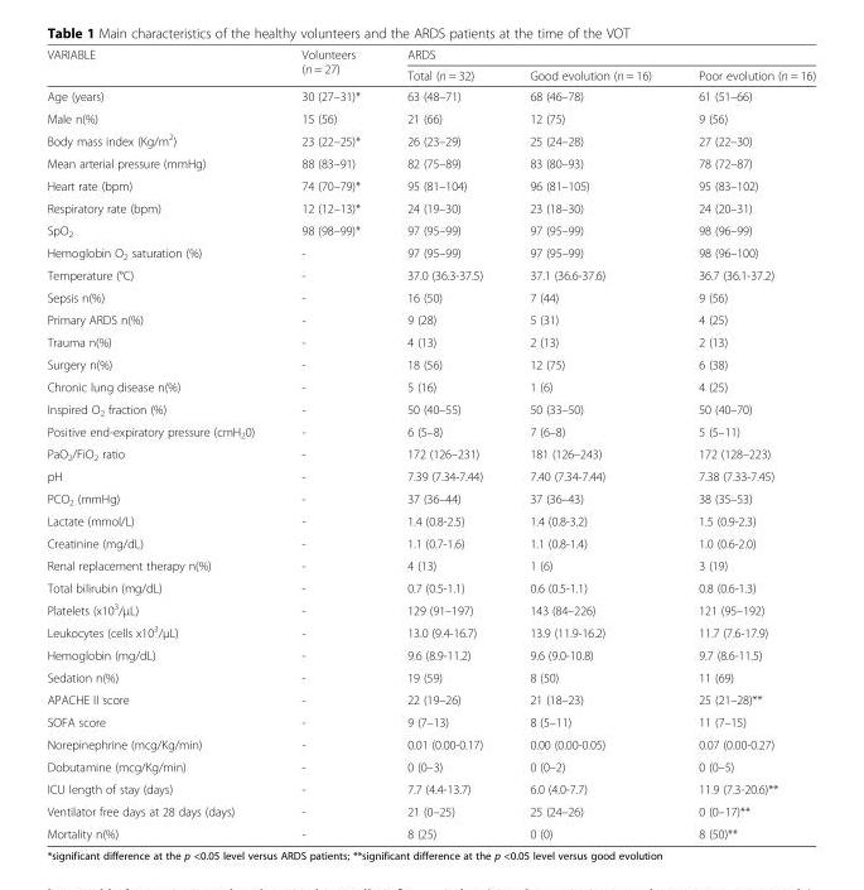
<table><thead><tr><td rowspan="2">VARIABLE</td><td rowspan="2">Volunteers (n = 27)</td><td colspan="3">ARDS</td></tr><tr><td>Total (n = 32)</td><td>Good evolution (n = 16)</td><td>Poor evolution (n = 16)</td></tr></thead><tbody><tr><td>Age (years)</td><td>30 (27–31)*</td><td>63 (48–71)</td><td>68 (46–78)</td><td>61 (51–66)</td></tr><tr><td>Male n(%)</td><td>15 (56)</td><td>21 (66)</td><td>12 (75)</td><td>9 (56)</td></tr><tr><td>Body mass index (Kg/m<sup>2</sup>)</td><td>23 (22–25)*</td><td>26 (23–29)</td><td>25 (24–28)</td><td>27 (22–30)</td></tr><tr><td>Mean arterial pressure (mmHg)</td><td>88 (83–91)</td><td>82 (75–89)</td><td>83 (80–93)</td><td>78 (72–87)</td></tr><tr><td>Heart rate (bpm)</td><td>74 (70–79)*</td><td>95 (81–104)</td><td>96 (81–105)</td><td>95 (83–102)</td></tr><tr><td>Respiratory rate (bpm)</td><td>12 (12–13)*</td><td>24 (19–30)</td><td>23 (18–30)</td><td>24 (20–31)</td></tr><tr><td>SpO<sub>2</sub></td><td>98 (98–99)*</td><td>97 (95–99)</td><td>97 (95–99)</td><td>98 (96–99)</td></tr><tr><td>Hemoglobin O<sub>2</sub> saturation (%)</td><td>-</td><td>97 (95–99)</td><td>97 (95–99)</td><td>98 (96–100)</td></tr><tr><td>Temperature (°C)</td><td>-</td><td>37.0 (36.3-37.5)</td><td>37.1 (36.6-37.6)</td><td>36.7 (36.1-37.2)</td></tr><tr><td>Sepsis n(%)</td><td>-</td><td>16 (50)</td><td>7 (44)</td><td>9 (56)</td></tr><tr><td>Primary ARDS n(%)</td><td>-</td><td>9 (28)</td><td>5 (31)</td><td>4 (25)</td></tr><tr><td>Trauma n(%)</td><td>-</td><td>4 (13)</td><td>2 (13)</td><td>2 (13)</td></tr><tr><td>Surgery n(%)</td><td>-</td><td>18 (56)</td><td>12 (75)</td><td>6 (38)</td></tr><tr><td>Chronic lung disease n(%)</td><td>-</td><td>5 (16)</td><td>1 (6)</td><td>4 (25)</td></tr><tr><td>Inspired O<sub>2</sub> fraction (%)</td><td>-</td><td>50 (40–55)</td><td>50 (33–50)</td><td>50 (40–70)</td></tr><tr><td>Positive end-expiratory pressure (cmH<sub>2</sub>0)</td><td>-</td><td>6 (5–8)</td><td>7 (6–8)</td><td>5 (5–11)</td></tr><tr><td>PaO<sub>2</sub>/FiO<sub>2</sub> ratio</td><td>-</td><td>172 (126–231)</td><td>181 (126–243)</td><td>172 (128–223)</td></tr><tr><td>pH</td><td>-</td><td>7.39 (7.34-7.44)</td><td>7.40 (7.34-7.44)</td><td>7.38 (7.33-7.45)</td></tr><tr><td>PCO<sub>2</sub> (mmHg)</td><td>-</td><td>37 (36–44)</td><td>37 (36–43)</td><td>38 (35–53)</td></tr><tr><td>Lactate (mmol/L)</td><td>-</td><td>1.4 (0.8-2.5)</td><td>1.4 (0.8-3.2)</td><td>1.5 (0.9-2.3)</td></tr><tr><td>Creatinine (mg/dL)</td><td>-</td><td>1.1 (0.7-1.6)</td><td>1.1 (0.8-1.4)</td><td>1.0 (0.6-2.0)</td></tr><tr><td>Renal replacement therapy n(%)</td><td>-</td><td>4 (13)</td><td>1 (6)</td><td>3 (19)</td></tr><tr><td>Total bilirubin (mg/dL)</td><td>-</td><td>0.7 (0.5-1.1)</td><td>0.6 (0.5-1.1)</td><td>0.8 (0.6-1.3)</td></tr><tr><td>Platelets (x10<sup>3</sup>/μL)</td><td>-</td><td>129 (91–197)</td><td>143 (84–226)</td><td>121 (95–192)</td></tr><tr><td>Leukocytes (cells x10<sup>3</sup>/μL)</td><td>-</td><td>13.0 (9.4-16.7)</td><td>13.9 (11.9-16.2)</td><td>11.7 (7.6-17.9)</td></tr><tr><td>Hemoglobin (mg/dL)</td><td>-</td><td>9.6 (8.9-11.2)</td><td>9.6 (9.0-10.8)</td><td>9.7 (8.6-11.5)</td></tr><tr><td>Sedation n(%)</td><td>-</td><td>19 (59)</td><td>8 (50)</td><td>11 (69)</td></tr><tr><td>APACHE II score</td><td>-</td><td>22 (19–26)</td><td>21 (18–23)</td><td>25 (21–28)**</td></tr><tr><td>SOFA score</td><td>-</td><td>9 (7–13)</td><td>8 (5–11)</td><td>11 (7–15)</td></tr><tr><td>Norepinephrine (mcg/Kg/min)</td><td>-</td><td>0.01 (0.00-0.17)</td><td>0.00 (0.00-0.05)</td><td>0.07 (0.00-0.27)</td></tr><tr><td>Dobutamine (mcg/Kg/min)</td><td>-</td><td>0 (0–3)</td><td>0 (0–2)</td><td>0 (0–5)</td></tr><tr><td>ICU length of stay (days)</td><td>-</td><td>7.7 (4.4-13.7)</td><td>6.0 (4.0-7.7)</td><td>11.9 (7.3-20.6)**</td></tr><tr><td>Ventilator free days at 28 days (days)</td><td>-</td><td>21 (0–25)</td><td>25 (24–26)</td><td>0 (0–17)**</td></tr><tr><td>Mortality n(%)</td><td>-</td><td>8 (25)</td><td>0 (0)</td><td>8 (50)**</td></tr></tbody></table>